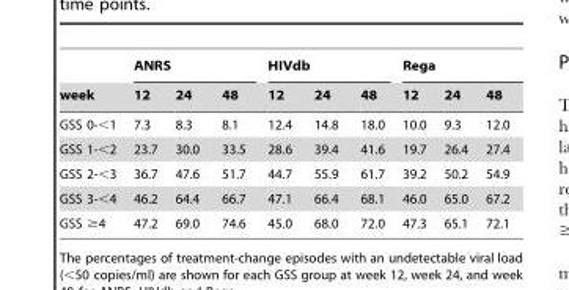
<table><thead><tr><td rowspan="2">week</td><td colspan="3">ANRS</td><td colspan="3">HIVdb</td><td colspan="3">Rega</td></tr><tr><td>12</td><td>24</td><td>48</td><td>12</td><td>24</td><td>48</td><td>12</td><td>24</td><td>48</td></tr></thead><tbody><tr><td>GSS 0-&lt;1</td><td>7.3</td><td>8.3</td><td>8.1</td><td>12.4</td><td>14.8</td><td>18.0</td><td>10.0</td><td>9.3</td><td>12.0</td></tr><tr><td>GSS 1-&lt;2</td><td>23.7</td><td>30.0</td><td>33.5</td><td>28.6</td><td>39.4</td><td>41.6</td><td>19.7</td><td>26.4</td><td>27.4</td></tr><tr><td>GSS 2-&lt;3</td><td>36.7</td><td>47.6</td><td>51.7</td><td>44.7</td><td>55.9</td><td>61.7</td><td>39.2</td><td>50.2</td><td>54.9</td></tr><tr><td>GSS 3-&lt;4</td><td>46.2</td><td>64.4</td><td>66.7</td><td>47.1</td><td>66.4</td><td>68.1</td><td>46.0</td><td>65.0</td><td>67.2</td></tr><tr><td>GSS ≥4</td><td>47.2</td><td>69.0</td><td>74.6</td><td>45.0</td><td>68.0</td><td>72.0</td><td>47.3</td><td>65.1</td><td>72.1</td></tr></tbody></table>